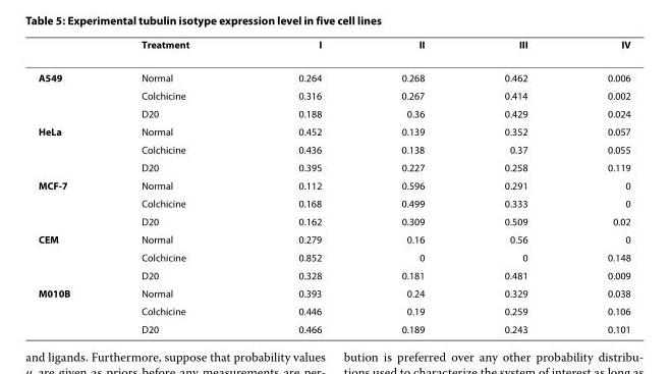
<table><thead><tr><td></td><td>Treatment</td><td>I</td><td>II</td><td>III</td><td>IV</td></tr></thead><tbody><tr><td rowspan="3">A549</td><td>Normal</td><td>0.264</td><td>0.268</td><td>0.462</td><td>0.006</td></tr><tr><td>Colchicine</td><td>0.316</td><td>0.267</td><td>0.414</td><td>0.002</td></tr><tr><td>D20</td><td>0.188</td><td>0.36</td><td>0.429</td><td>0.024</td></tr><tr><td rowspan="3">HeLa</td><td>Normal</td><td>0.452</td><td>0.139</td><td>0.352</td><td>0.057</td></tr><tr><td>Colchicine</td><td>0.436</td><td>0.138</td><td>0.37</td><td>0.055</td></tr><tr><td>D20</td><td>0.395</td><td>0.227</td><td>0.258</td><td>0.119</td></tr><tr><td rowspan="3">MCF-7</td><td>Normal</td><td>0.112</td><td>0.596</td><td>0.291</td><td>0</td></tr><tr><td>Colchicine</td><td>0.168</td><td>0.499</td><td>0.333</td><td>0</td></tr><tr><td>D20</td><td>0.162</td><td>0.309</td><td>0.509</td><td>0.02</td></tr><tr><td rowspan="3">CEM</td><td>Normal</td><td>0.279</td><td>0.16</td><td>0.56</td><td>0</td></tr><tr><td>Colchicine</td><td>0.852</td><td>0</td><td>0</td><td>0.148</td></tr><tr><td>D20</td><td>0.328</td><td>0.181</td><td>0.481</td><td>0.009</td></tr><tr><td rowspan="3">M010B</td><td>Normal</td><td>0.393</td><td>0.24</td><td>0.329</td><td>0.038</td></tr><tr><td>Colchicine</td><td>0.446</td><td>0.19</td><td>0.259</td><td>0.106</td></tr><tr><td>D20</td><td>0.466</td><td>0.189</td><td>0.243</td><td>0.101</td></tr></tbody></table>